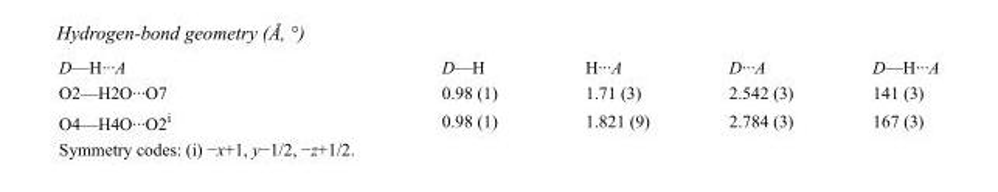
<table><tbody><tr><td>D—H···A</td><td>D—H</td><td>H···A</td><td>D···A</td><td>D—H···A</td></tr><tr><td>O2—H2O···O7</td><td>0.98 (1)</td><td>1.71 (3)</td><td>2.542 (3)</td><td>141 (3)</td></tr><tr><td>O4—H4O···O2<sup>i</sup></td><td>0.98 (1)</td><td>1.821 (9)</td><td>2.784 (3)</td><td>167 (3)</td></tr></tbody></table>